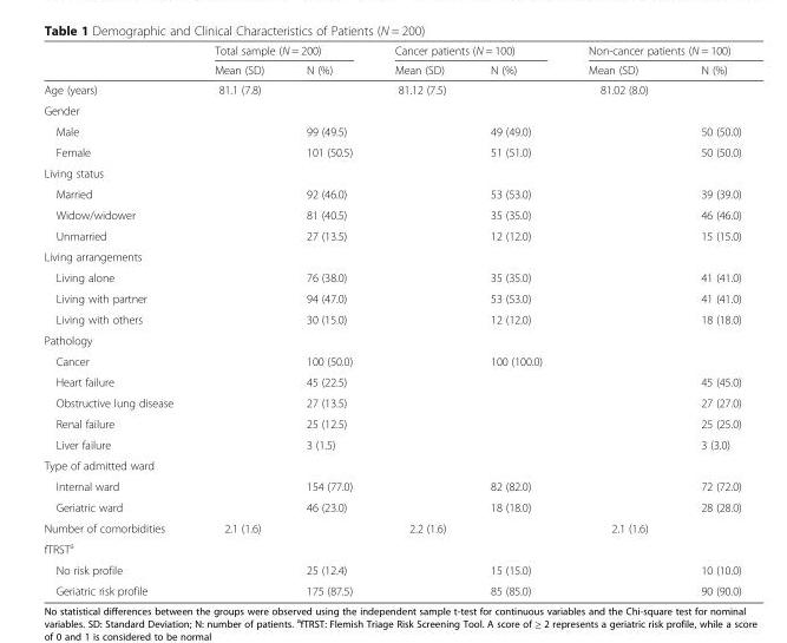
<table><thead><tr><td rowspan="2"></td><td colspan="2">Total sample (N = 200)</td><td colspan="2">Cancer patients (N = 100)</td><td colspan="2">Non-cancer patients (N = 100)</td></tr><tr><td>Mean (SD)</td><td>N (%)</td><td>Mean (SD)</td><td>N (%)</td><td>Mean (SD)</td><td>N (%)</td></tr></thead><tbody><tr><td>Age (years)</td><td>81.1 (7.8)</td><td></td><td>81.12 (7.5)</td><td></td><td>81.02 (8.0)</td><td></td></tr><tr><td colspan="7">Gender</td></tr><tr><td>Male</td><td></td><td>99 (49.5)</td><td></td><td>49 (49.0)</td><td></td><td>50 (50.0)</td></tr><tr><td>Female</td><td></td><td>101 (50.5)</td><td></td><td>51 (51.0)</td><td></td><td>50 (50.0)</td></tr><tr><td colspan="7">Living status</td></tr><tr><td>Married</td><td></td><td>92 (46.0)</td><td></td><td>53 (53.0)</td><td></td><td>39 (39.0)</td></tr><tr><td>Widow/widower</td><td></td><td>81 (40.5)</td><td></td><td>35 (35.0)</td><td></td><td>46 (46.0)</td></tr><tr><td>Unmarried</td><td></td><td>27 (13.5)</td><td></td><td>12 (12.0)</td><td></td><td>15 (15.0)</td></tr><tr><td colspan="7">Living arrangements</td></tr><tr><td>Living alone</td><td></td><td>76 (38.0)</td><td></td><td>35 (35.0)</td><td></td><td>41 (41.0)</td></tr><tr><td>Living with partner</td><td></td><td>94 (47.0)</td><td></td><td>53 (53.0)</td><td></td><td>41 (41.0)</td></tr><tr><td>Living with others</td><td></td><td>30 (15.0)</td><td></td><td>12 (12.0)</td><td></td><td>18 (18.0)</td></tr><tr><td colspan="7">Pathology</td></tr><tr><td>Cancer</td><td></td><td>100 (50.0)</td><td></td><td>100 (100.0)</td><td></td><td></td></tr><tr><td>Heart failure</td><td></td><td>45 (22.5)</td><td></td><td></td><td></td><td>45 (45.0)</td></tr><tr><td>Obstructive lung disease</td><td></td><td>27 (13.5)</td><td></td><td></td><td></td><td>27 (27.0)</td></tr><tr><td>Renal failure</td><td></td><td>25 (12.5)</td><td></td><td></td><td></td><td>25 (25.0)</td></tr><tr><td>Liver failure</td><td></td><td>3 (1.5)</td><td></td><td></td><td></td><td>3 (3.0)</td></tr><tr><td colspan="7">Type of admitted ward</td></tr><tr><td>Internal ward</td><td></td><td>154 (77.0)</td><td></td><td>82 (82.0)</td><td></td><td>72 (72.0)</td></tr><tr><td>Geriatric ward</td><td></td><td>46 (23.0)</td><td></td><td>18 (18.0)</td><td></td><td>28 (28.0)</td></tr><tr><td>Number of comorbidities</td><td>2.1 (1.6)</td><td></td><td>2.2 (1.6)</td><td></td><td>2.1 (1.6)</td><td></td></tr><tr><td colspan="7">fTRST<sup>a</sup></td></tr><tr><td>No risk profile</td><td></td><td>25 (12.4)</td><td></td><td>15 (15.0)</td><td></td><td>10 (10.0)</td></tr><tr><td>Geriatric risk profile</td><td></td><td>175 (87.5)</td><td></td><td>85 (85.0)</td><td></td><td>90 (90.0)</td></tr></tbody></table>